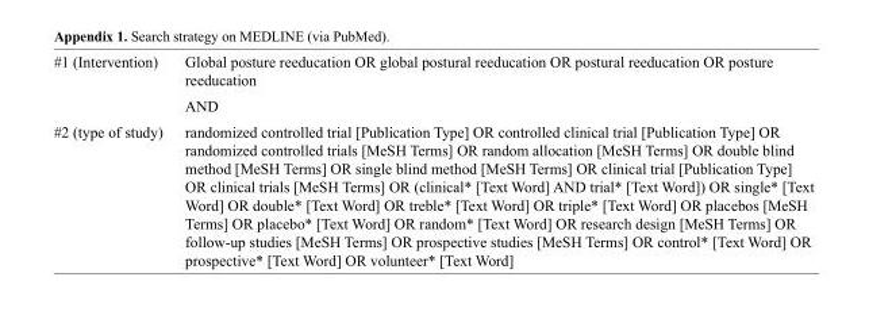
<table><tbody><tr><td rowspan="2">#1 (Intervention)</td><td>Global posture reeducation OR global postural reeducation OR postural reeducation OR posture reeducation</td></tr><tr><td>AND</td></tr><tr><td>#2 (type of study)</td><td>randomized controlled trial [Publication Type] OR controlled clinical trial [Publication Type] OR randomized controlled trials [MeSH Terms] OR random allocation [MeSH Terms] OR double blind method [MeSH Terms] OR single blind method [MeSH Terms] OR clinical trial [Publication Type] OR clinical trials [MeSH Terms] OR (clinical* [Text Word] AND trial* [Text Word]) OR single* [Text Word] OR double* [Text Word] OR treble* [Text Word] OR triple* [Text Word] OR placebos [MeSH Terms] OR placebo* [Text Word] OR random* [Text Word] OR research design [MeSH Terms] OR follow-up studies [MeSH Terms] OR prospective studies [MeSH Terms] OR control* [Text Word] OR prospective* [Text Word] OR volunteer* [Text Word]</td></tr></tbody></table>